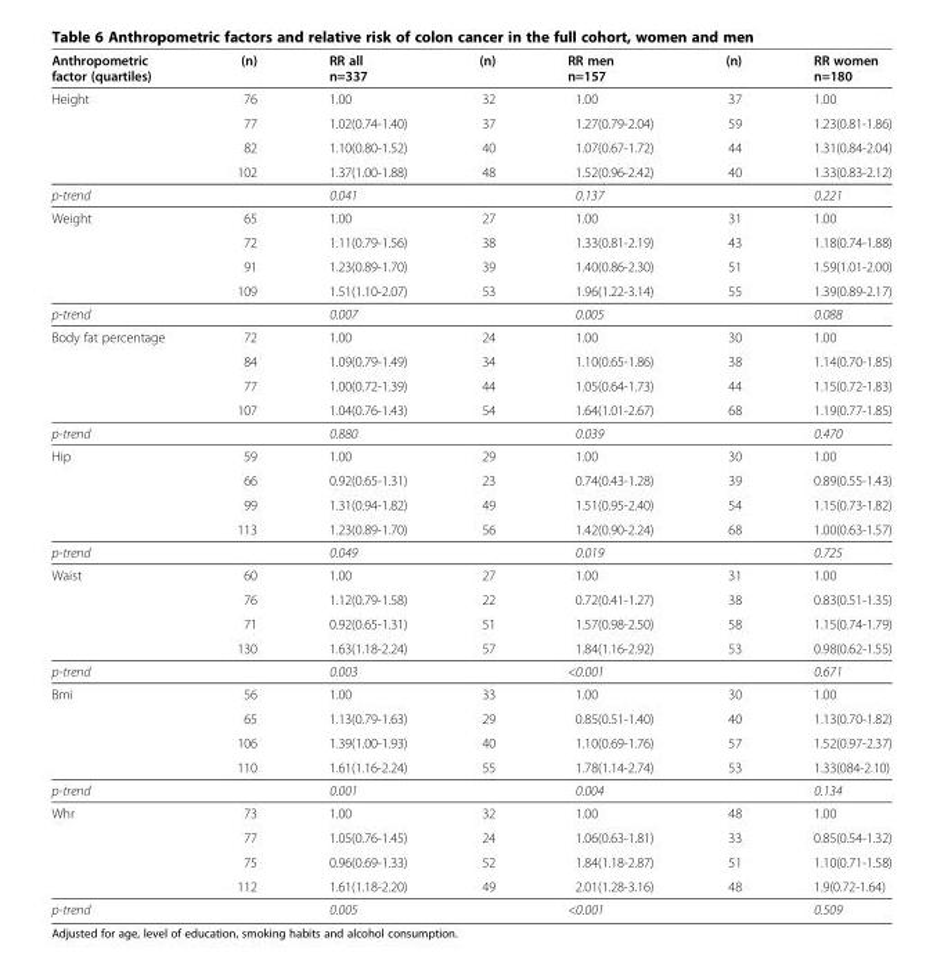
<table><thead><tr><td>Anthropometric factor (quartiles)</td><td>(n)</td><td>RR all n=337</td><td>(n)</td><td>RR men n=157</td><td>(n)</td><td>RR women n=180</td></tr></thead><tbody><tr><td rowspan="4">Height</td><td>76</td><td>1.00</td><td>32</td><td>1.00</td><td>37</td><td>1.00</td></tr><tr><td>77</td><td>1.02(0.74-1.40)</td><td>37</td><td>1.27(0.79-2.04)</td><td>59</td><td>1.23(0.81-1.86)</td></tr><tr><td>82</td><td>1.10(0.80-1.52)</td><td>40</td><td>1.07(0.67-1.72)</td><td>44</td><td>1.31(0.84-2.04)</td></tr><tr><td>102</td><td>1.37(1.00-1.88)</td><td>48</td><td>1.52(0.96-2.42)</td><td>40</td><td>1.33(0.83-2.12)</td></tr><tr><td>p-trend</td><td></td><td>0.041</td><td></td><td>0.137</td><td></td><td>0.221</td></tr><tr><td rowspan="4">Weight</td><td>65</td><td>1.00</td><td>27</td><td>1.00</td><td>31</td><td>1.00</td></tr><tr><td>72</td><td>1.11(0.79-1.56)</td><td>38</td><td>1.33(0.81-2.19)</td><td>43</td><td>1.18(0.74-1.88)</td></tr><tr><td>91</td><td>1.23(0.89-1.70)</td><td>39</td><td>1.40(0.86-2.30)</td><td>51</td><td>1.59(1.01-2.00)</td></tr><tr><td>109</td><td>1.51(1.10-2.07)</td><td>53</td><td>1.96(1.22-3.14)</td><td>55</td><td>1.39(0.89-2.17)</td></tr><tr><td>p-trend</td><td></td><td>0.007</td><td></td><td>0.005</td><td></td><td>0.088</td></tr><tr><td rowspan="4">Body fat percentage</td><td>72</td><td>1.00</td><td>24</td><td>1.00</td><td>30</td><td>1.00</td></tr><tr><td>84</td><td>1.09(0.79-1.49)</td><td>34</td><td>1.10(0.65-1.86)</td><td>38</td><td>1.14(0.70-1.85)</td></tr><tr><td>77</td><td>1.00(0.72-1.39)</td><td>44</td><td>1.05(0.64-1.73)</td><td>44</td><td>1.15(0.72-1.83)</td></tr><tr><td>107</td><td>1.04(0.76-1.43)</td><td>54</td><td>1.64(1.01-2.67)</td><td>68</td><td>1.19(0.77-1.85)</td></tr><tr><td>p-trend</td><td></td><td>0.880</td><td></td><td>0.039</td><td></td><td>0.470</td></tr><tr><td rowspan="4">Hip</td><td>59</td><td>1.00</td><td>29</td><td>1.00</td><td>30</td><td>1.00</td></tr><tr><td>66</td><td>0.92(0.65-1.31)</td><td>23</td><td>0.74(0.43-1.28)</td><td>39</td><td>0.89(0.55-1.43)</td></tr><tr><td>99</td><td>1.31(0.94-1.82)</td><td>49</td><td>1.51(0.95-2.40)</td><td>54</td><td>1.15(0.73-1.82)</td></tr><tr><td>113</td><td>1.23(0.89-1.70)</td><td>56</td><td>1.42(0.90-2.24)</td><td>68</td><td>1.00(0.63-1.57)</td></tr><tr><td>p-trend</td><td></td><td>0.049</td><td></td><td>0.019</td><td></td><td>0.725</td></tr><tr><td rowspan="4">Waist</td><td>60</td><td>1.00</td><td>27</td><td>1.00</td><td>31</td><td>1.00</td></tr><tr><td>76</td><td>1.12(0.79-1.58)</td><td>22</td><td>0.72(0.41-1.27)</td><td>38</td><td>0.83(0.51-1.35)</td></tr><tr><td>71</td><td>0.92(0.65-1.31)</td><td>51</td><td>1.57(0.98-2.50)</td><td>58</td><td>1.15(0.74-1.79)</td></tr><tr><td>130</td><td>1.63(1.18-2.24)</td><td>57</td><td>1.84(1.16-2.92)</td><td>53</td><td>0.98(0.62-1.55)</td></tr><tr><td>p-trend</td><td></td><td>0.003</td><td></td><td>&lt;0.001</td><td></td><td>0.671</td></tr><tr><td rowspan="4">Bmi</td><td>56</td><td>1.00</td><td>33</td><td>1.00</td><td>30</td><td>1.00</td></tr><tr><td>65</td><td>1.13(0.79-1.63)</td><td>29</td><td>0.85(0.51-1.40)</td><td>40</td><td>1.13(0.70-1.82)</td></tr><tr><td>106</td><td>1.39(1.00-1.93)</td><td>40</td><td>1.10(0.69-1.76)</td><td>57</td><td>1.52(0.97-2.37)</td></tr><tr><td>110</td><td>1.61(1.16-2.24)</td><td>55</td><td>1.78(1.14-2.74)</td><td>53</td><td>1.33(084-2.10)</td></tr><tr><td>p-trend</td><td></td><td>0.001</td><td></td><td>0.004</td><td></td><td>0.134</td></tr><tr><td rowspan="4">Whr</td><td>73</td><td>1.00</td><td>32</td><td>1.00</td><td>48</td><td>1.00</td></tr><tr><td>77</td><td>1.05(0.76-1.45)</td><td>24</td><td>1.06(0.63-1.81)</td><td>33</td><td>0.85(0.54-1.32)</td></tr><tr><td>75</td><td>0.96(0.69-1.33)</td><td>52</td><td>1.84(1.18-2.87)</td><td>51</td><td>1.10(0.71-1.58)</td></tr><tr><td>112</td><td>1.61(1.18-2.20)</td><td>49</td><td>2.01(1.28-3.16)</td><td>48</td><td>1.9(0.72-1.64)</td></tr><tr><td>p-trend</td><td></td><td>0.005</td><td></td><td>&lt;0.001</td><td></td><td>0.509</td></tr></tbody></table>